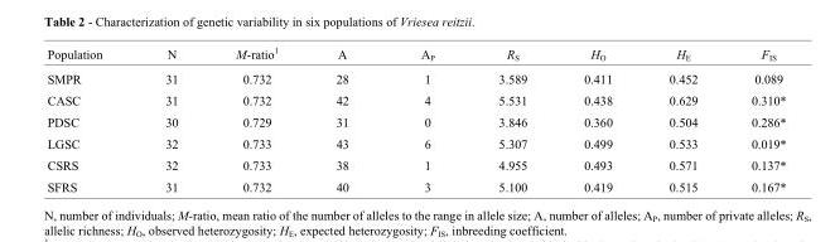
<table><thead><tr><td>Population</td><td>N</td><td>M-ratio<sup>1</sup></td><td>A</td><td>A<sub>P</sub></td><td>R<sub>S</sub></td><td>H<sub>O</sub></td><td>H<sub>E</sub></td><td>F<sub>IS</sub></td></tr></thead><tbody><tr><td>SMPR</td><td>31</td><td>0.732</td><td>28</td><td>1</td><td>3.589</td><td>0.411</td><td>0.452</td><td>0.089</td></tr><tr><td>CASC</td><td>31</td><td>0.732</td><td>42</td><td>4</td><td>5.531</td><td>0.438</td><td>0.629</td><td>0.310*</td></tr><tr><td>PDSC</td><td>30</td><td>0.729</td><td>31</td><td>0</td><td>3.846</td><td>0.360</td><td>0.504</td><td>0.286*</td></tr><tr><td>LGSC</td><td>32</td><td>0.733</td><td>43</td><td>6</td><td>5.307</td><td>0.499</td><td>0.533</td><td>0.019*</td></tr><tr><td>CSRS</td><td>32</td><td>0.733</td><td>38</td><td>1</td><td>4.955</td><td>0.493</td><td>0.571</td><td>0.137*</td></tr><tr><td>SFRS</td><td>31</td><td>0.732</td><td>40</td><td>3</td><td>5.100</td><td>0.419</td><td>0.515</td><td>0.167*</td></tr></tbody></table>